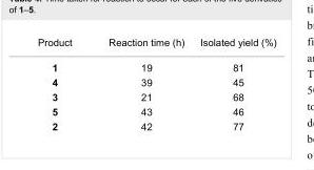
<table><tbody><tr><td>Product</td><td>Reaction time (h)</td><td>Isolated yield (%)</td></tr><tr><td>1</td><td>19</td><td>81</td></tr><tr><td>4</td><td>39</td><td>45</td></tr><tr><td>3</td><td>21</td><td>68</td></tr><tr><td>5</td><td>43</td><td>46</td></tr><tr><td>2</td><td>42</td><td>77</td></tr></tbody></table>